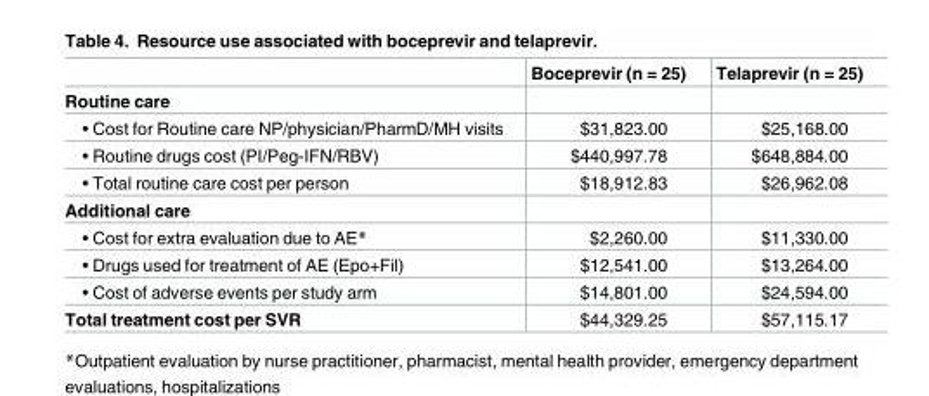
<table><thead><tr><td></td><td>Boceprevir (n = 25)</td><td>Telaprevir (n = 25)</td></tr></thead><tbody><tr><td colspan="3">Routine care</td></tr><tr><td>• Cost for Routine care NP/physician/PharmD/MH visits</td><td>$31,823.00</td><td>$25,168.00</td></tr><tr><td>• Routine drugs cost (PI/Peg-IFN/RBV)</td><td>$440,997.78</td><td>$648,884.00</td></tr><tr><td>• Total routine care cost per person</td><td>$18,912.83</td><td>$26,962.08</td></tr><tr><td colspan="3">Additional care</td></tr><tr><td>• Cost for extra evaluation due to AE*</td><td>$2,260.00</td><td>$11,330.00</td></tr><tr><td>• Drugs used for treatment of AE (Epo+Fil)</td><td>$12,541.00</td><td>$13,264.00</td></tr><tr><td>• Cost of adverse events per study arm</td><td>$14,801.00</td><td>$24,594.00</td></tr><tr><td>Total treatment cost per SVR</td><td>$44,329.25</td><td>$57,115.17</td></tr></tbody></table>